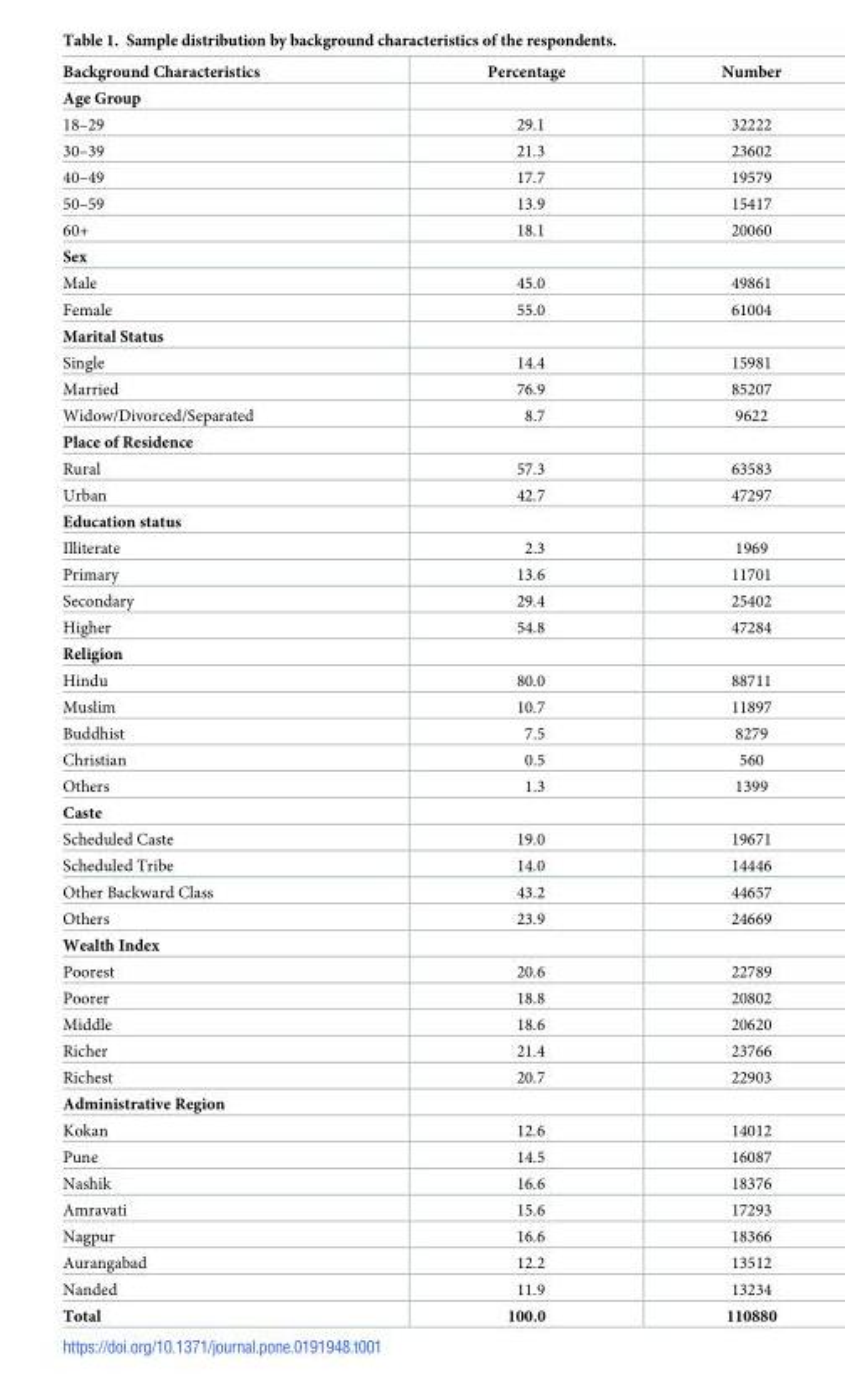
<table><thead><tr><td>Background Characteristics</td><td>Percentage</td><td>Number</td></tr></thead><tbody><tr><td colspan="3">Age Group</td></tr><tr><td>18–29</td><td>29.1</td><td>32222</td></tr><tr><td>30–39</td><td>21.3</td><td>23602</td></tr><tr><td>40–49</td><td>17.7</td><td>19579</td></tr><tr><td>50–59</td><td>13.9</td><td>15417</td></tr><tr><td>60+</td><td>18.1</td><td>20060</td></tr><tr><td colspan="3">Sex</td></tr><tr><td>Male</td><td>45.0</td><td>49861</td></tr><tr><td>Female</td><td>55.0</td><td>61004</td></tr><tr><td colspan="3">Marital Status</td></tr><tr><td>Single</td><td>14.4</td><td>15981</td></tr><tr><td>Married</td><td>76.9</td><td>85207</td></tr><tr><td>Widow/Divorced/Separated</td><td>8.7</td><td>9622</td></tr><tr><td colspan="3">Place of Residence</td></tr><tr><td>Rural</td><td>57.3</td><td>63583</td></tr><tr><td>Urban</td><td>42.7</td><td>47297</td></tr><tr><td colspan="3">Education status</td></tr><tr><td>Illiterate</td><td>2.3</td><td>1969</td></tr><tr><td>Primary</td><td>13.6</td><td>11701</td></tr><tr><td>Secondary</td><td>29.4</td><td>25402</td></tr><tr><td>Higher</td><td>54.8</td><td>47284</td></tr><tr><td colspan="3">Religion</td></tr><tr><td>Hindu</td><td>80.0</td><td>88711</td></tr><tr><td>Muslim</td><td>10.7</td><td>11897</td></tr><tr><td>Buddhist</td><td>7.5</td><td>8279</td></tr><tr><td>Christian</td><td>0.5</td><td>560</td></tr><tr><td>Others</td><td>1.3</td><td>1399</td></tr><tr><td colspan="3">Caste</td></tr><tr><td>Scheduled Caste</td><td>19.0</td><td>19671</td></tr><tr><td>Scheduled Tribe</td><td>14.0</td><td>14446</td></tr><tr><td>Other Backward Class</td><td>43.2</td><td>44657</td></tr><tr><td>Others</td><td>23.9</td><td>24669</td></tr><tr><td colspan="3">Wealth Index</td></tr><tr><td>Poorest</td><td>20.6</td><td>22789</td></tr><tr><td>Poorer</td><td>18.8</td><td>20802</td></tr><tr><td>Middle</td><td>18.6</td><td>20620</td></tr><tr><td>Richer</td><td>21.4</td><td>23766</td></tr><tr><td>Richest</td><td>20.7</td><td>22903</td></tr><tr><td colspan="3">Administrative Region</td></tr><tr><td>Kokan</td><td>12.6</td><td>14012</td></tr><tr><td>Pune</td><td>14.5</td><td>16087</td></tr><tr><td>Nashik</td><td>16.6</td><td>18376</td></tr><tr><td>Amravati</td><td>15.6</td><td>17293</td></tr><tr><td>Nagpur</td><td>16.6</td><td>18366</td></tr><tr><td>Aurangabad</td><td>12.2</td><td>13512</td></tr><tr><td>Nanded</td><td>11.9</td><td>13234</td></tr><tr><td>Total</td><td>100.0</td><td>110880</td></tr></tbody></table>